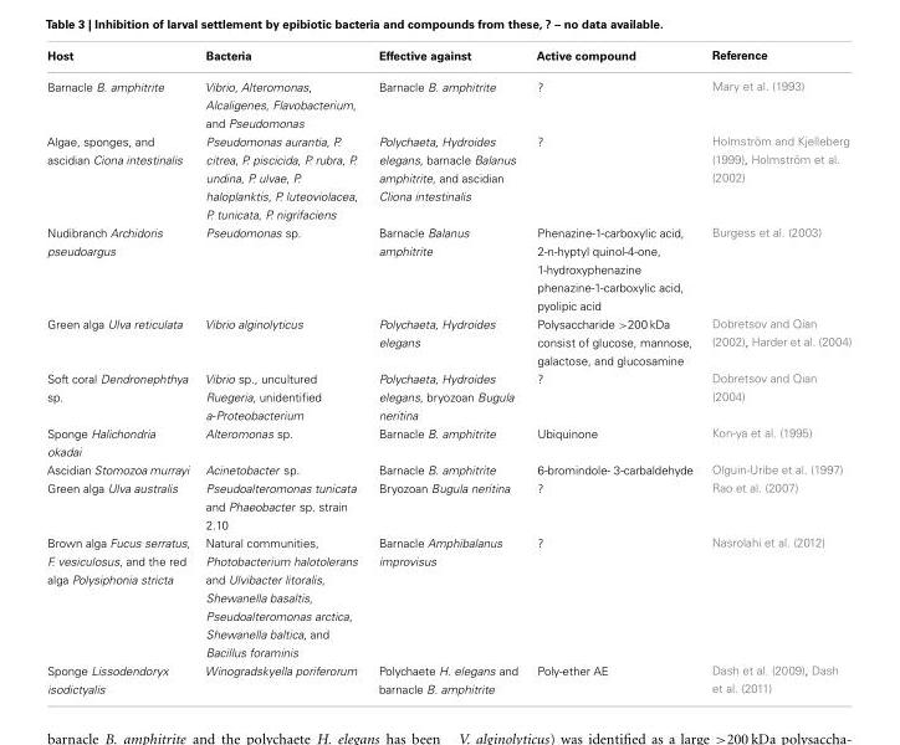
<table><thead><tr><td>Host</td><td>Bacteria</td><td>Effective against</td><td>Active compound</td><td>Reference</td></tr></thead><tbody><tr><td>Barnacle B. amphitrite</td><td>Vibrio, Alteromonas, Alcaligenes, Flavobacterium, and Pseudomonas</td><td>Barnacle B. amphitrite</td><td>?</td><td>Mary et al. (1993)</td></tr><tr><td>Algae, sponges, and ascidian Ciona intestinalis</td><td>Pseudomonas aurantia, P. citrea, P. piscicida, P. rubra, P. undina, P. ulvae, P. haloplanktis, P. luteoviolacea, P. tunicata, P. nigrifaciens</td><td>Polychaeta, Hydroides elegans, barnacle Balanus amphitrite, and ascidian Cliona intestinalis</td><td>?</td><td>Holmström and Kjelleberg (1999), Holmström et al. (2002)</td></tr><tr><td>Nudibranch Archidoris pseudoargus</td><td>Pseudomonas sp.</td><td>Barnacle Balanus amphitrite</td><td>Phenazine-1-carboxylic acid, 2-n-hyptyl quinol-4-one, 1-hydroxyphenazine phenazine-1-carboxylic acid, pyolipic acid</td><td>Burgess et al. (2003)</td></tr><tr><td>Green alga Ulva reticulata</td><td>Vibrio alginolyticus</td><td>Polychaeta, Hydroides elegans</td><td>Polysaccharide &gt;200 kDa consist of glucose, mannose, galactose, and glucosamine</td><td>Dobretsov and Qian (2002), Harder et al. (2004)</td></tr><tr><td>Soft coral Dendronephthya sp.</td><td>Vibrio sp., uncultured Ruegeria, unidentified a-Proteobacterium</td><td>Polychaeta, Hydroides elegans, bryozoan Bugula neritina</td><td>?</td><td>Dobretsov and Qian (2004)</td></tr><tr><td>Sponge Halichondria okadai</td><td>Alteromonas sp.</td><td>Barnacle B. amphitrite</td><td>Ubiquinone</td><td>Kon-ya et al. (1995)</td></tr><tr><td>Ascidian Stomozoa murrayi</td><td>Acinetobacter sp.</td><td>Barnacle B. amphitrite</td><td>6-bromindole- 3-carbaldehyde</td><td>Olguin-Uribe et al. (1997)</td></tr><tr><td>Green alga Ulva australis</td><td>Pseudoalteromonas tunicata and Phaeobacter sp. strain 2.10</td><td>Bryozoan Bugula neritina</td><td>?</td><td>Rao et al. (2007)</td></tr><tr><td>Brown alga Fucus serratus, F. vesiculosus, and the red alga Polysiphonia stricta</td><td>Natural communities, Photobacterium halotolerans and Ulvibacter litoralis, Shewanella basaltis, Pseudoalteromonas arctica, Shewanella baltica, and Bacillus foraminis</td><td>Barnacle Amphibalanus improvisus</td><td>?</td><td>Nasrolahi et al. (2012)</td></tr><tr><td>Sponge Lissodendoryx isodictyalis</td><td>Winogradskyella poriferorum</td><td>Polychaete H. elegans and barnacle B. amphitrite</td><td>Poly-ether AE</td><td>Dash et al. (2009), Dash et al. (2011)</td></tr></tbody></table>